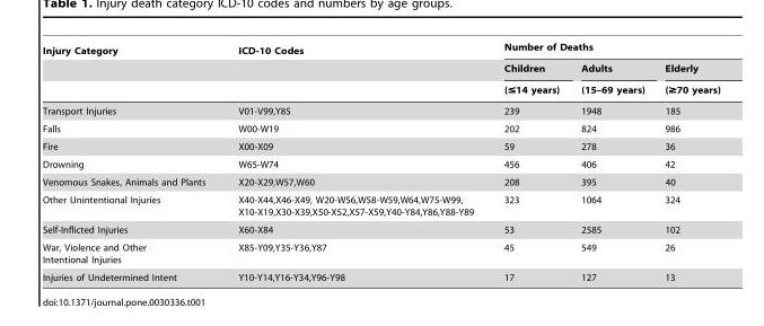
<table><thead><tr><td rowspan="3">Injury Category</td><td rowspan="3">ICD-10 Codes</td><td colspan="3">Number of Deaths</td></tr><tr><td rowspan="2">Children (≤14 years)</td><td rowspan="2">Adults (15–69 years)</td><td rowspan="2">Elderly (≥70 years)</td></tr><tr></tr></thead><tbody><tr><td>Transport Injuries</td><td>V01-V99,Y85</td><td>239</td><td>1948</td><td>185</td></tr><tr><td>Falls</td><td>W00-W19</td><td>202</td><td>824</td><td>986</td></tr><tr><td>Fire</td><td>X00-X09</td><td>59</td><td>278</td><td>36</td></tr><tr><td>Drowning</td><td>W65-W74</td><td>456</td><td>406</td><td>42</td></tr><tr><td>Venomous Snakes, Animals and Plants</td><td>X20-X29,W57,W60</td><td>208</td><td>395</td><td>40</td></tr><tr><td>Other Unintentional Injuries</td><td>X40-X44,X46-X49, W20-W56,W58-W59,W64,W75-W99, X10-X19,X30-X39,X50-X52,X57-X59,Y40-Y84,Y86,Y88-Y89</td><td>323</td><td>1064</td><td>324</td></tr><tr><td>Self-Inflicted Injuries</td><td>X60-X84</td><td>53</td><td>2585</td><td>102</td></tr><tr><td>War, Violence and Other Intentional Injuries</td><td>X85-Y09,Y35-Y36,Y87</td><td>45</td><td>549</td><td>26</td></tr><tr><td>Injuries of Undetermined Intent</td><td>Y10-Y14,Y16-Y34,Y96-Y98</td><td>17</td><td>127</td><td>13</td></tr></tbody></table>